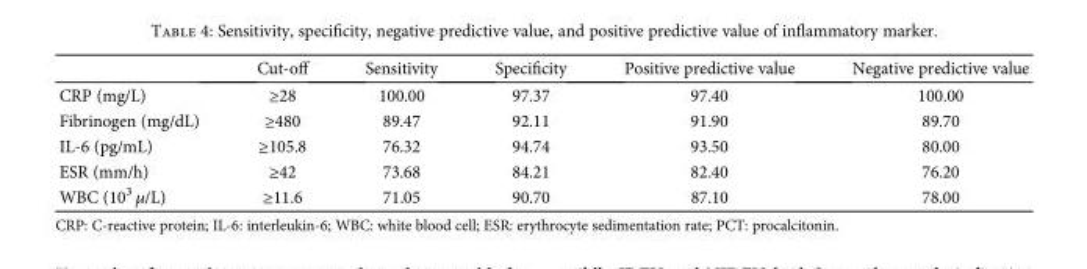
<table><thead><tr><td></td><td>Cut-off</td><td>Sensitivity</td><td>Specificity</td><td>Positive predictive value</td><td>Negative predictive value</td></tr></thead><tbody><tr><td>CRP (mg/L)</td><td>≥28</td><td>100.00</td><td>97.37</td><td>97.40</td><td>100.00</td></tr><tr><td>Fibrinogen (mg/dL)</td><td>≥480</td><td>89.47</td><td>92.11</td><td>91.90</td><td>89.70</td></tr><tr><td>IL-6 (pg/mL)</td><td>≥105.8</td><td>76.32</td><td>94.74</td><td>93.50</td><td>80.00</td></tr><tr><td>ESR (mm/h)</td><td>≥42</td><td>73.68</td><td>84.21</td><td>82.40</td><td>76.20</td></tr><tr><td>WBC (10<sup>3</sup> μ/L)</td><td>≥11.6</td><td>71.05</td><td>90.70</td><td>87.10</td><td>78.00</td></tr></tbody></table>